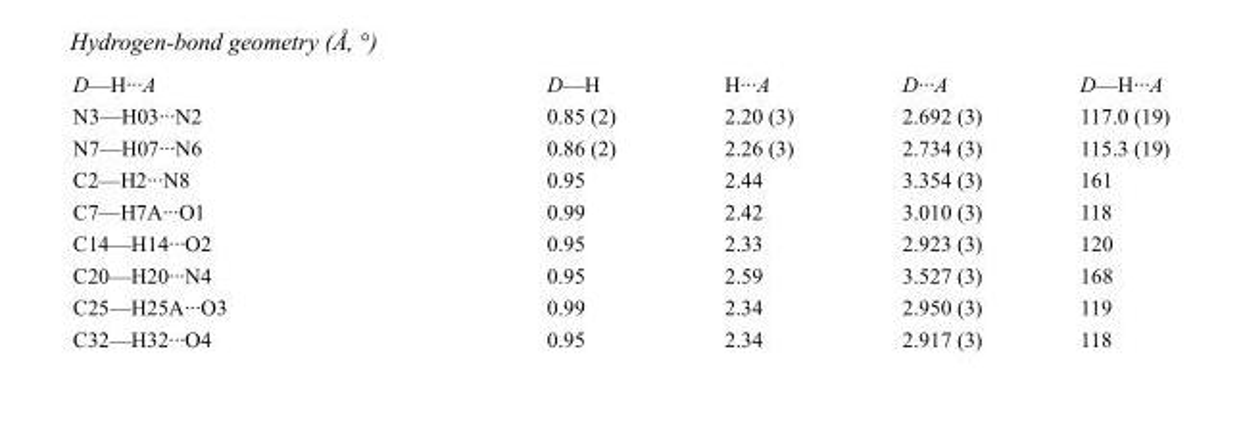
<table><tbody><tr><td>D—H···A</td><td>D—H</td><td>H···A</td><td>D···A</td><td>D—H···A</td></tr><tr><td>N3—H03···N2</td><td>0.85 (2)</td><td>2.20 (3)</td><td>2.692 (3)</td><td>117.0 (19)</td></tr><tr><td>N7—H07···N6</td><td>0.86 (2)</td><td>2.26 (3)</td><td>2.734 (3)</td><td>115.3 (19)</td></tr><tr><td>C2—H2···N8</td><td>0.95</td><td>2.44</td><td>3.354 (3)</td><td>161</td></tr><tr><td>C7—H7A···O1</td><td>0.99</td><td>2.42</td><td>3.010 (3)</td><td>118</td></tr><tr><td>C14—H14···O2</td><td>0.95</td><td>2.33</td><td>2.923 (3)</td><td>120</td></tr><tr><td>C20—H20···N4</td><td>0.95</td><td>2.59</td><td>3.527 (3)</td><td>168</td></tr><tr><td>C25—H25A···O3</td><td>0.99</td><td>2.34</td><td>2.950 (3)</td><td>119</td></tr><tr><td>C32—H32···O4</td><td>0.95</td><td>2.34</td><td>2.917 (3)</td><td>118</td></tr></tbody></table>